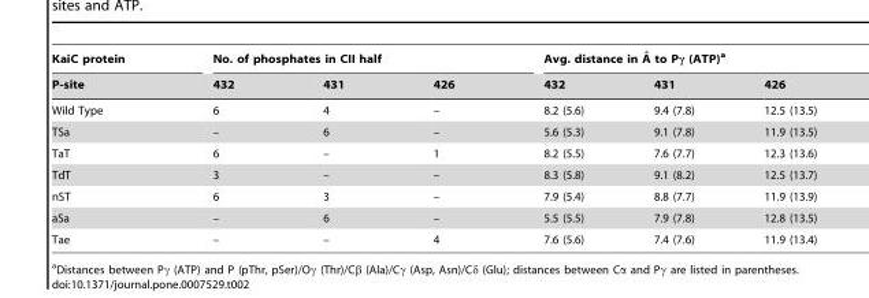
<table><thead><tr><td rowspan="2">KaiC protein P-site</td><td colspan="3">No. of phosphates in CII half</td><td colspan="3">Avg. distance in A˚ to Pc (ATP)a</td></tr><tr><td>432</td><td>431</td><td>426</td><td>432</td><td>431</td><td>426</td></tr></thead><tbody><tr><td>Wild Type</td><td>6</td><td>4</td><td>–</td><td>8.2 (5.6)</td><td>9.4 (7.8)</td><td>12.5 (13.5)</td></tr><tr><td>TSa</td><td>–</td><td>6</td><td>–</td><td>5.6 (5.3)</td><td>9.1 (7.8)</td><td>11.9 (13.5)</td></tr><tr><td>TaT</td><td>6</td><td>–</td><td>1</td><td>8.2 (5.5)</td><td>7.6 (7.7)</td><td>12.3 (13.6)</td></tr><tr><td>TdT</td><td>3</td><td>–</td><td>–</td><td>8.3 (5.8)</td><td>9.1 (8.2)</td><td>12.5 (13.7)</td></tr><tr><td>nST</td><td>6</td><td>3</td><td>–</td><td>7.9 (5.4)</td><td>8.8 (7.7)</td><td>11.9 (13.9)</td></tr><tr><td>aSa</td><td>–</td><td>6</td><td>–</td><td>5.5 (5.5)</td><td>7.9 (7.8)</td><td>12.8 (13.5)</td></tr><tr><td>Tae</td><td>–</td><td>–</td><td>4</td><td>7.6 (5.6)</td><td>7.4 (7.6)</td><td>11.9 (13.4)</td></tr></tbody></table>